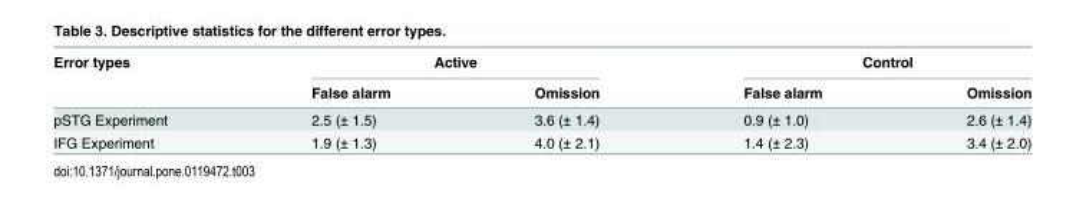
<table><thead><tr><td rowspan="2">Error types</td><td colspan="2">Active</td><td colspan="2">Control</td></tr><tr><td>False alarm</td><td>Omission</td><td>False alarm</td><td>Omission</td></tr></thead><tbody><tr><td>pSTG Experiment</td><td>2.5 (± 1.5)</td><td>3.6 (± 1.4)</td><td>0.9 (± 1.0)</td><td>2.6 (± 1.4)</td></tr><tr><td>IFG Experiment</td><td>1.9 (± 1.3)</td><td>4.0 (± 2.1)</td><td>1.4 (± 2.3)</td><td>3.4 (± 2.0)</td></tr></tbody></table>